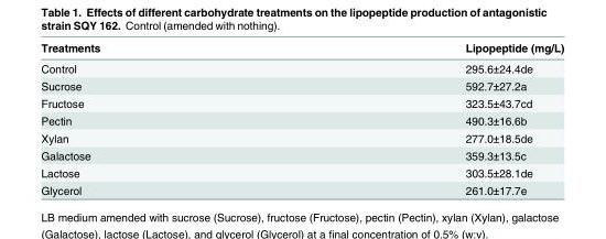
<table><thead><tr><td>Treatments</td><td>Lipopeptide (mg/L)</td></tr></thead><tbody><tr><td>Control</td><td>295.6±24.4de</td></tr><tr><td>Sucrose</td><td>592.7±27.2a</td></tr><tr><td>Fructose</td><td>323.5±43.7cd</td></tr><tr><td>Pectin</td><td>490.3±16.6b</td></tr><tr><td>Xylan</td><td>277.0±18.5de</td></tr><tr><td>Galactose</td><td>359.3±13.5c</td></tr><tr><td>Lactose</td><td>303.5±28.1de</td></tr><tr><td>Glycerol</td><td>261.0±17.7e</td></tr></tbody></table>